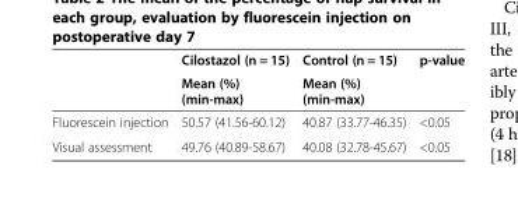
<table><thead><tr><td rowspan="2"></td><td rowspan="2">Cilostazol (n = 15) Mean (%) (min-max)</td><td rowspan="2">Control (n = 15) Mean (%) (min-max)</td><td rowspan="2">p-value</td></tr><tr></tr></thead><tbody><tr><td>Fluorescein injection</td><td>50.57 (41.56-60.12)</td><td>40.87 (33.77-46.35)</td><td>&lt;0.05</td></tr><tr><td>Visual assessment</td><td>49.76 (40.89-58.67)</td><td>40.08 (32.78-45.67)</td><td>&lt;0.05</td></tr></tbody></table>